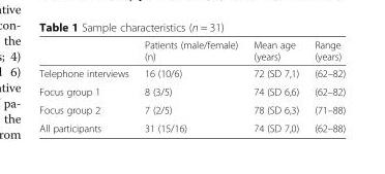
<table><thead><tr><td></td><td>Patients (male/female) (n)</td><td>Mean age (years)</td><td>Range (years)</td></tr></thead><tbody><tr><td>Telephone interviews</td><td>16 (10/6)</td><td>72 (SD 7,1)</td><td>(62–82)</td></tr><tr><td>Focus group 1</td><td>8 (3/5)</td><td>74 (SD 6,6)</td><td>(62–82)</td></tr><tr><td>Focus group 2</td><td>7 (2/5)</td><td>78 (SD 6,3)</td><td>(71–88)</td></tr><tr><td>All participants</td><td>31 (15/16)</td><td>74 (SD 7,0)</td><td>(62–88)</td></tr></tbody></table>